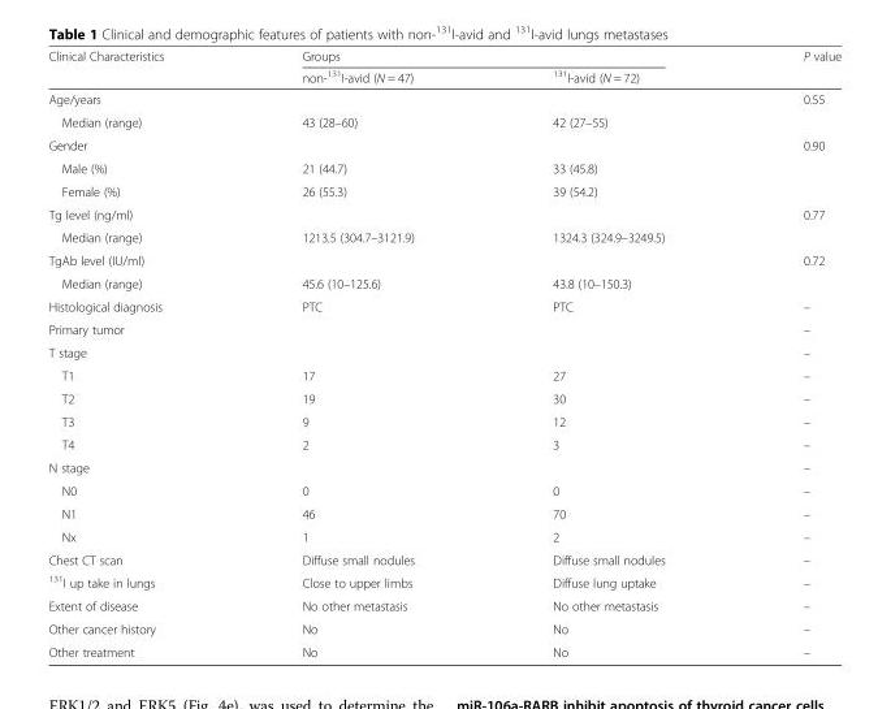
<table><thead><tr><td rowspan="2">Clinical Characteristics</td><td colspan="2">Groups</td><td rowspan="2">P value</td></tr><tr><td>non-<sup>131</sup>I-avid (N = 47)</td><td><sup>131</sup>I-avid (N = 72)</td></tr></thead><tbody><tr><td>Age/years</td><td></td><td></td><td>0.55</td></tr><tr><td>Median (range)</td><td>43 (28–60)</td><td>42 (27–55)</td><td></td></tr><tr><td>Gender</td><td></td><td></td><td>0.90</td></tr><tr><td>Male (%)</td><td>21 (44.7)</td><td>33 (45.8)</td><td></td></tr><tr><td>Female (%)</td><td>26 (55.3)</td><td>39 (54.2)</td><td></td></tr><tr><td>Tg level (ng/ml)</td><td></td><td></td><td>0.77</td></tr><tr><td>Median (range)</td><td>1213.5 (304.7–3121.9)</td><td>1324.3 (324.9–3249.5)</td><td></td></tr><tr><td>TgAb level (IU/ml)</td><td></td><td></td><td>0.72</td></tr><tr><td>Median (range)</td><td>45.6 (10–125.6)</td><td>43.8 (10–150.3)</td><td></td></tr><tr><td>Histological diagnosis</td><td>PTC</td><td>PTC</td><td>–</td></tr><tr><td>Primary tumor</td><td></td><td></td><td>–</td></tr><tr><td>T stage</td><td></td><td></td><td>–</td></tr><tr><td>T1</td><td>17</td><td>27</td><td>–</td></tr><tr><td>T2</td><td>19</td><td>30</td><td>–</td></tr><tr><td>T3</td><td>9</td><td>12</td><td>–</td></tr><tr><td>T4</td><td>2</td><td>3</td><td>–</td></tr><tr><td>N stage</td><td></td><td></td><td>–</td></tr><tr><td>N0</td><td>0</td><td>0</td><td>–</td></tr><tr><td>N1</td><td>46</td><td>70</td><td>–</td></tr><tr><td>Nx</td><td>1</td><td>2</td><td>–</td></tr><tr><td>Chest CT scan</td><td>Diffuse small nodules</td><td>Diffuse small nodules</td><td>–</td></tr><tr><td><sup>131</sup>I up take in lungs</td><td>Close to upper limbs</td><td>Diffuse lung uptake</td><td>–</td></tr><tr><td>Extent of disease</td><td>No other metastasis</td><td>No other metastasis</td><td>–</td></tr><tr><td>Other cancer history</td><td>No</td><td>No</td><td>–</td></tr><tr><td>Other treatment</td><td>No</td><td>No</td><td>–</td></tr></tbody></table>